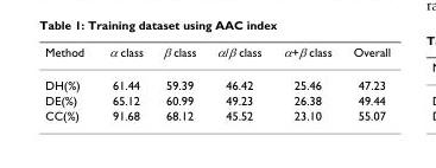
<table><thead><tr><td>Method</td><td>α class</td><td>β class</td><td>α/β class</td><td>α+β class</td><td>Overall</td></tr></thead><tbody><tr><td>DH(%)</td><td>61.44</td><td>59.39</td><td>46.42</td><td>25.46</td><td>47.23</td></tr><tr><td>DE(%)</td><td>65.12</td><td>60.99</td><td>49.23</td><td>26.38</td><td>49.44</td></tr><tr><td>CC(%)</td><td>91.68</td><td>68.12</td><td>45.52</td><td>23.10</td><td>55.07</td></tr></tbody></table>